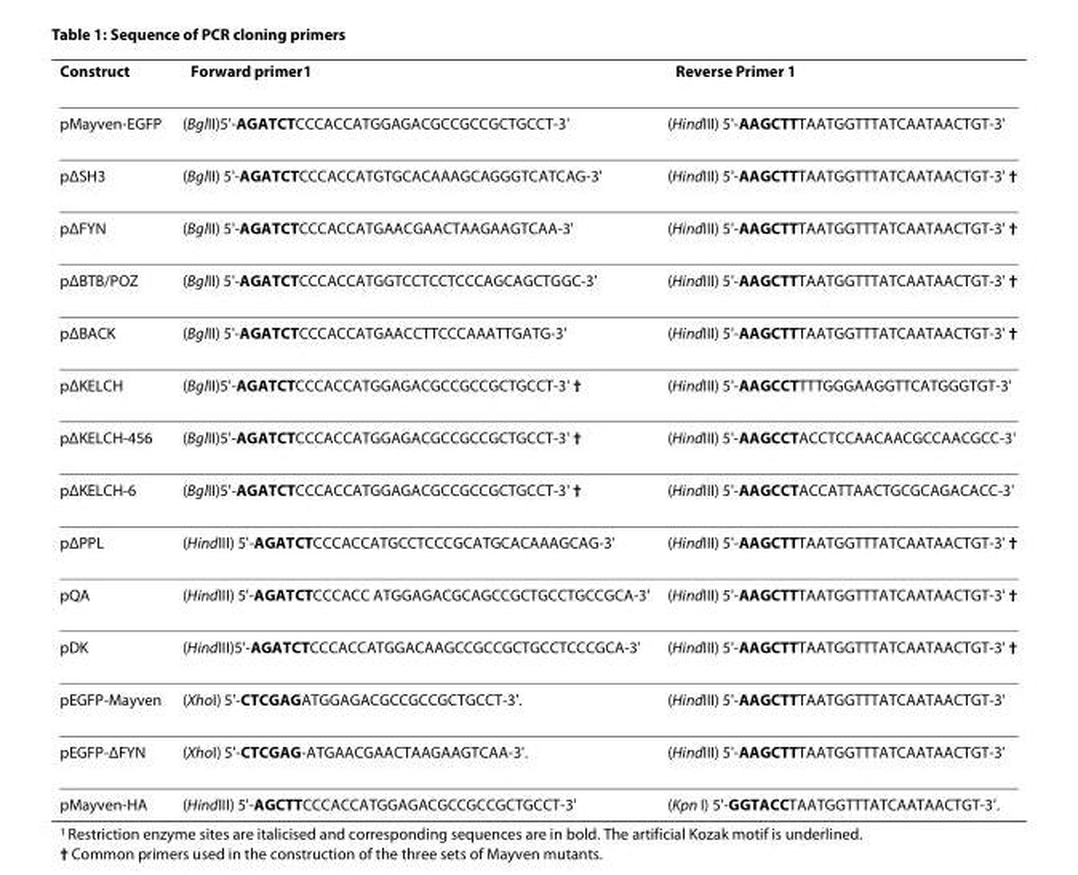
<table><thead><tr><td>Construct</td><td>Forward primer<sup>1</sup></td><td>Reverse Primer <sup>1</sup></td></tr></thead><tbody><tr><td>pMayven-EGFP</td><td>(BglII)5&#x27;-AGATCTCCCACCATGGAGACGCCGCCGCTGCCT-3&#x27;</td><td>(HindIII) 5&#x27;-AAGCTTTAATGGTTTATCAATAACTGT-3&#x27;</td></tr><tr><td>pΔSH3</td><td>(BglII) 5&#x27;-AGATCTCCCACCATGTGCACAAAGCAGGGTCATCAG-3&#x27;</td><td>(HindIII) 5&#x27;-AAGCTTTAATGGTTTATCAATAACTGT-3&#x27; †</td></tr><tr><td>pΔFYN</td><td>(BglII) 5&#x27;-AGATCTCCCACCATGAACGAACTAAGAAGTCAA-3&#x27;</td><td>(HindIII) 5&#x27;-AAGCTTTAATGGTTTATCAATAACTGT-3&#x27; †</td></tr><tr><td>pΔBTB/POZ</td><td>(BglII) 5&#x27;-AGATCTCCCACCATGGTCCTCCTCCCAGCAGCTGGC-3&#x27;</td><td>(HindIII) 5&#x27;-AAGCTTTAATGGTTTATCAATAACTGT-3&#x27; †</td></tr><tr><td>pΔBACK</td><td>(BglII) 5&#x27;-AGATCTCCCACCATGAACCTTCCCAAATTGATG-3&#x27;</td><td>(HindIII) 5&#x27;-AAGCTTTAATGGTTTATCAATAACTGT-3&#x27; †</td></tr><tr><td>pΔKELCH</td><td>(BglII)5&#x27;-AGATCTCCCACCATGGAGACGCCGCCGCTGCCT-3&#x27; †</td><td>(HindIII) 5&#x27;-AAGCCTTTTGGGAAGGTTCATGGGTGT-3&#x27;</td></tr><tr><td>pΔKELCH-456</td><td>(BglII)5&#x27;-AGATCTCCCACCATGGAGACGCCGCCGCTGCCT-3&#x27; †</td><td>(HindIII) 5&#x27;-AAGCCTACCTCCAACAACGCCAACGCC-3&#x27;</td></tr><tr><td>pΔKELCH-6</td><td>(BglII)5&#x27;-AGATCTCCCACCATGGAGACGCCGCCGCTGCCT-3&#x27; †</td><td>(HindIII) 5&#x27;-AAGCCTACCATTAACTGCGCAGACACC-3&#x27;</td></tr><tr><td>pΔPPL</td><td>(HindIII) 5&#x27;-AGATCTCCCACCATGCCTCCCGCATGCACAAAGCAG-3&#x27;</td><td>(HindIII) 5&#x27;-AAGCTTTAATGGTTTATCAATAACTGT-3&#x27; †</td></tr><tr><td>pQA</td><td>(HindIII) 5&#x27;-AGATCTCCCACC ATGGAGACGCAGCCGCTGCCTGCCGCA-3&#x27;</td><td>(HindIII) 5&#x27;-AAGCTTTAATGGTTTATCAATAACTGT-3&#x27; †</td></tr><tr><td>pDK</td><td>(HindIII)5&#x27;-AGATCTCCCACCATGGACAAGCCGCCGCTGCCTCCCGCA-3&#x27;</td><td>(HindIII) 5&#x27;-AAGCTTTAATGGTTTATCAATAACTGT-3&#x27; †</td></tr><tr><td>pEGFP-Mayven</td><td>(XhoI) 5&#x27;-CTCGAGATGGAGACGCCGCCGCTGCCT-3&#x27;.</td><td>(HindIII) 5&#x27;-AAGCTTTAATGGTTTATCAATAACTGT-3&#x27;</td></tr><tr><td>pEGFP-ΔFYN</td><td>(XhoI) 5&#x27;-CTCGAG-ATGAACGAACTAAGAAGTCAA-3&#x27;.</td><td>(HindIII) 5&#x27;-AAGCTTTAATGGTTTATCAATAACTGT-3&#x27;</td></tr><tr><td>pMayven-HA</td><td>(HindIII) 5&#x27;-AGCTTCCCACCATGGAGACGCCGCCGCTGCCT-3&#x27;</td><td>(Kpn I) 5&#x27;-GGTACCTAATGGTTTATCAATAACTGT-3&#x27;.</td></tr></tbody></table>